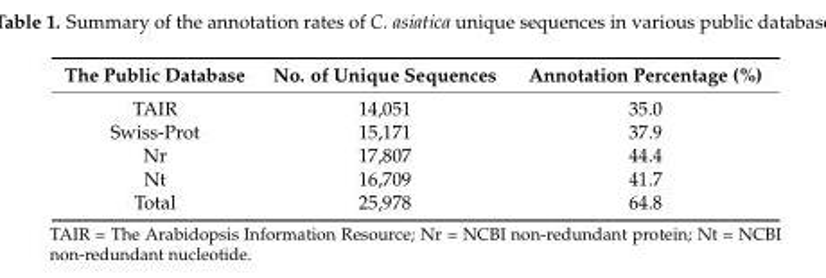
<table><thead><tr><td>The Public Database</td><td>No. of Unique Sequences</td><td>Annotation Percentage (%)</td></tr></thead><tbody><tr><td>TAIR</td><td>14,051</td><td>35.0</td></tr><tr><td>Swiss-Prot</td><td>15,171</td><td>37.9</td></tr><tr><td>Nr</td><td>17,807</td><td>44.4</td></tr><tr><td>Nt</td><td>16,709</td><td>41.7</td></tr><tr><td>Total</td><td>25,978</td><td>64.8</td></tr></tbody></table>